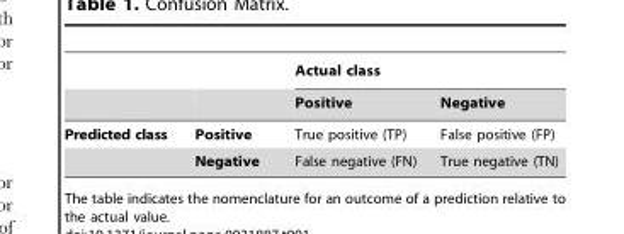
<table><thead><tr><td rowspan="2"></td><td rowspan="2"></td><td colspan="2">Actual class</td></tr><tr><td>Positive</td><td>Negative</td></tr></thead><tbody><tr><td rowspan="2">Predicted class</td><td>Positive</td><td>True positive (TP)</td><td>False positive (FP)</td></tr><tr><td>Negative</td><td>False negative (FN)</td><td>True negative (TN)</td></tr></tbody></table>